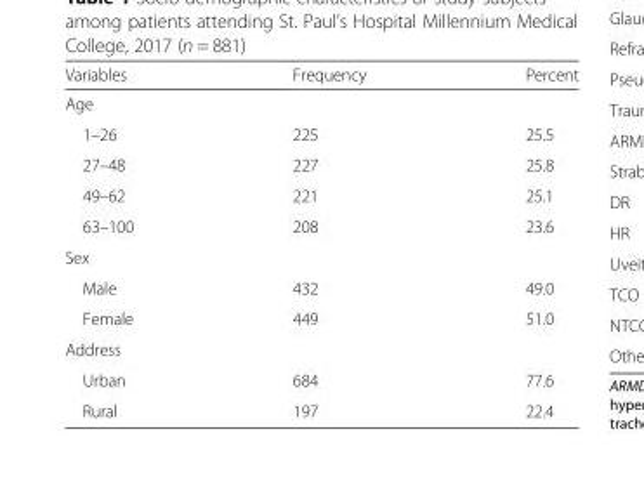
<table><thead><tr><td>Variables</td><td>Frequency</td><td>Percent</td></tr></thead><tbody><tr><td colspan="3">Age</td></tr><tr><td>1–26</td><td>225</td><td>25.5</td></tr><tr><td>27–48</td><td>227</td><td>25.8</td></tr><tr><td>49–62</td><td>221</td><td>25.1</td></tr><tr><td>63–100</td><td>208</td><td>23.6</td></tr><tr><td colspan="3">Sex</td></tr><tr><td>Male</td><td>432</td><td>49.0</td></tr><tr><td>Female</td><td>449</td><td>51.0</td></tr><tr><td colspan="3">Address</td></tr><tr><td>Urban</td><td>684</td><td>77.6</td></tr><tr><td>Rural</td><td>197</td><td>22.4</td></tr></tbody></table>